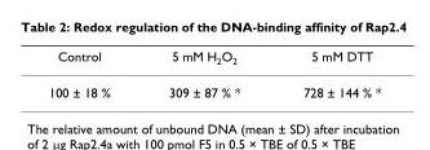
<table><thead><tr><td>Control</td><td>5 mM H<sub>2</sub>O<sub>2</sub></td><td>5 mM DTT</td></tr></thead><tbody><tr><td>100 ± 18 %</td><td>309 ± 87 % *</td><td>728 ± 144 % *</td></tr></tbody></table>